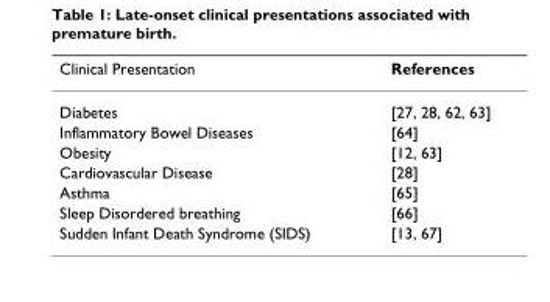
<table><thead><tr><td>Clinical Presentation</td><td>References</td></tr></thead><tbody><tr><td>Diabetes</td><td>[27, 28, 62, 63]</td></tr><tr><td>Inflammatory Bowel Diseases</td><td>[64]</td></tr><tr><td>Obesity</td><td>[12, 63]</td></tr><tr><td>Cardiovascular Disease</td><td>[28]</td></tr><tr><td>Asthma</td><td>[65]</td></tr><tr><td>Sleep Disordered breathing</td><td>[66]</td></tr><tr><td>Sudden Infant Death Syndrome (SIDS)</td><td>[13, 67]</td></tr></tbody></table>